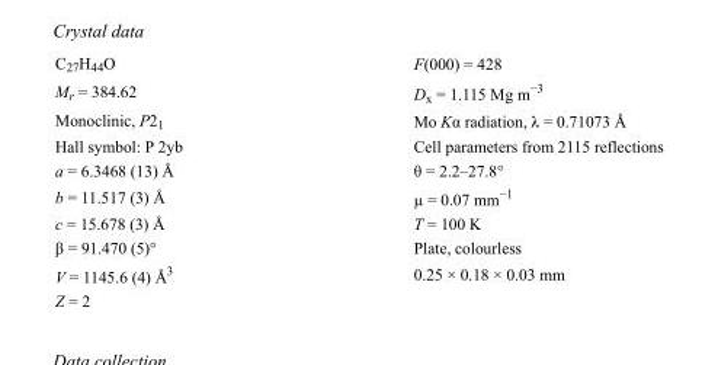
<table><tbody><tr><td>C<sub>27</sub>H<sub>44</sub>O</td><td>F(000) = 428</td></tr><tr><td>M<sub>r</sub> = 384.62</td><td>D<sub>x</sub> = 1.115 Mg m<sup>−3</sup></td></tr><tr><td>Monoclinic, P2<sub>1</sub></td><td>Mo Kα radiation, λ = 0.71073 Å</td></tr><tr><td>Hall symbol: P 2yb</td><td>Cell parameters from 2115 reflections</td></tr><tr><td>a = 6.3468 (13) Å</td><td>θ = 2.2–27.8°</td></tr><tr><td>b = 11.517 (3) Å</td><td>µ = 0.07 mm<sup>−1</sup></td></tr><tr><td>c = 15.678 (3) Å</td><td>T = 100 K</td></tr><tr><td>β = 91.470 (5)°</td><td>Plate, colourless</td></tr><tr><td>V = 1145.6 (4) Å<sup>3</sup></td><td>0.25 × 0.18 × 0.03 mm</td></tr><tr><td>Z = 2</td><td></td></tr></tbody></table>